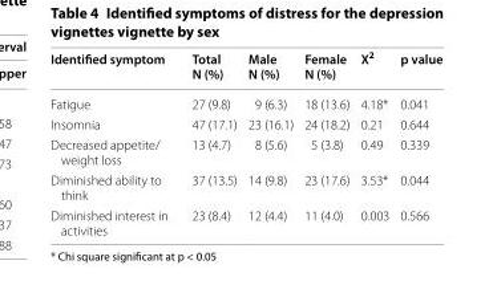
<table><thead><tr><td>Identified symptom</td><td>Total N (%)</td><td>Male N (%)</td><td>Female N (%)</td><td>X<sup>2</sup></td><td>p value</td></tr></thead><tbody><tr><td>Fatigue</td><td>27 (9.8)</td><td>9 (6.3)</td><td>18 (13.6)</td><td>4.18*</td><td>0.041</td></tr><tr><td>Insomnia</td><td>47 (17.1)</td><td>23 (16.1)</td><td>24 (18.2)</td><td>0.21</td><td>0.644</td></tr><tr><td>Decreased appetite/ weight loss</td><td>13 (4.7)</td><td>8 (5.6)</td><td>5 (3.8)</td><td>0.49</td><td>0.339</td></tr><tr><td>Diminished ability to think</td><td>37 (13.5)</td><td>14 (9.8)</td><td>23 (17.6)</td><td>3.53*</td><td>0.044</td></tr><tr><td>Diminished interest in activities</td><td>23 (8.4)</td><td>12 (4.4)</td><td>11 (4.0)</td><td>0.003</td><td>0.566</td></tr></tbody></table>